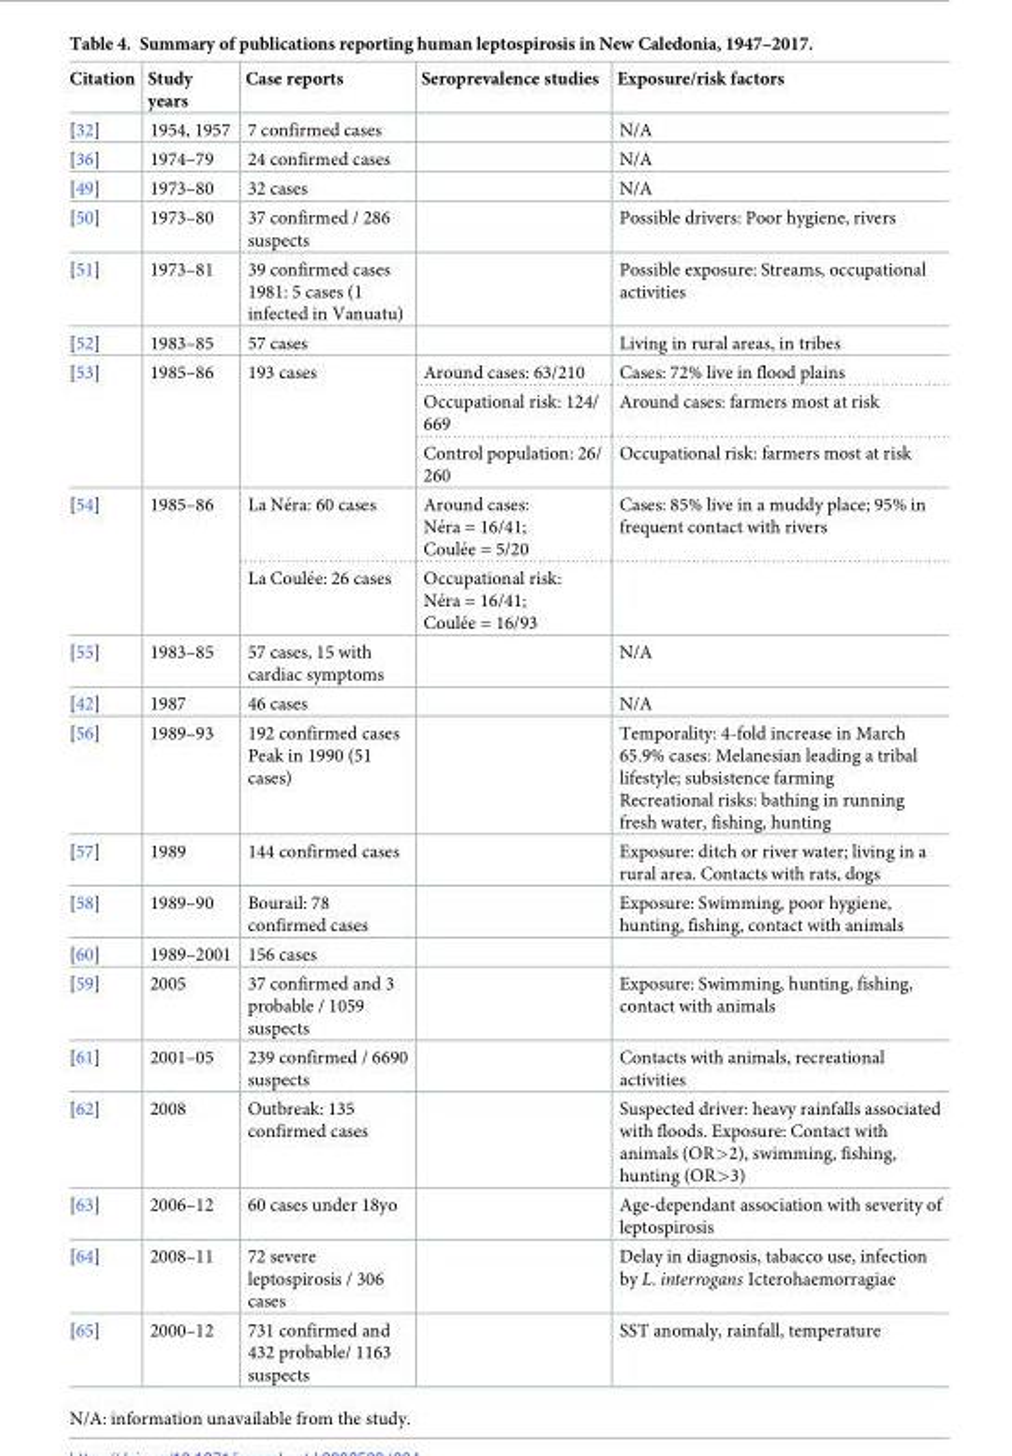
<table><thead><tr><td>Citation</td><td>Study years</td><td>Case reports</td><td>Seroprevalence studies</td><td>Exposure/risk factors</td></tr></thead><tbody><tr><td>[32]</td><td>1954, 1957</td><td>7 confirmed cases</td><td></td><td>N/A</td></tr><tr><td>[36]</td><td>1974–79</td><td>24 confirmed cases</td><td></td><td>N/A</td></tr><tr><td>[49]</td><td>1973–80</td><td>32 cases</td><td></td><td>N/A</td></tr><tr><td>[50]</td><td>1973–80</td><td>37 confirmed / 286 suspects</td><td></td><td>Possible drivers: Poor hygiene, rivers</td></tr><tr><td>[51]</td><td>1973–81</td><td>39 confirmed cases 1981: 5 cases (1 infected in Vanuatu)</td><td></td><td>Possible exposure: Streams, occupational activities</td></tr><tr><td>[52]</td><td>1983–85</td><td>57 cases</td><td></td><td>Living in rural areas, in tribes</td></tr><tr><td rowspan="3">[53]</td><td rowspan="3">1985–86</td><td rowspan="3">193 cases</td><td>Around cases: 63/210</td><td>Cases: 72% live in flood plains</td></tr><tr><td>Occupational risk: 124/ 669</td><td>Around cases: farmers most at risk</td></tr><tr><td>Control population: 26/ 260</td><td>Occupational risk: farmers most at risk</td></tr><tr><td rowspan="2">[54]</td><td rowspan="2">1985–86</td><td>La Ne´ra: 60 cases</td><td>Around cases: Ne´ra = 16/41; Coule´e = 5/20</td><td>Cases: 85% live in a muddy place; 95% in frequent contact with rivers</td></tr><tr><td>La Coule´e: 26 cases</td><td>Occupational risk: Ne´ra = 16/41; Coule´e = 16/93</td><td></td></tr><tr><td>[55]</td><td>1983–85</td><td>57 cases, 15 with cardiac symptoms</td><td></td><td>N/A</td></tr><tr><td>[42]</td><td>1987</td><td>46 cases</td><td></td><td>N/A</td></tr><tr><td>[56]</td><td>1989–93</td><td>192 confirmed cases Peak in 1990 (51 cases)</td><td></td><td>Temporality: 4-fold increase in March 65.9% cases: Melanesian leading a tribal lifestyle; subsistence farming Recreational risks: bathing in running fresh water, fishing, hunting</td></tr><tr><td>[57]</td><td>1989</td><td>144 confirmed cases</td><td></td><td>Exposure: ditch or river water; living in a rural area. Contacts with rats, dogs</td></tr><tr><td>[58]</td><td>1989–90</td><td>Bourail: 78 confirmed cases</td><td></td><td>Exposure: Swimming, poor hygiene, hunting, fishing, contact with animals</td></tr><tr><td>[60]</td><td>1989–2001</td><td>156 cases</td><td></td><td></td></tr><tr><td>[59]</td><td>2005</td><td>37 confirmed and 3 probable / 1059 suspects</td><td></td><td>Exposure: Swimming, hunting, fishing, contact with animals</td></tr><tr><td>[61]</td><td>2001–05</td><td>239 confirmed / 6690 suspects</td><td></td><td>Contacts with animals, recreational activities</td></tr><tr><td>[62]</td><td>2008</td><td>Outbreak: 135 confirmed cases</td><td></td><td>Suspected driver: heavy rainfalls associated with floods. Exposure: Contact with animals (OR&gt;2), swimming, fishing, hunting (OR&gt;3)</td></tr><tr><td>[63]</td><td>2006–12</td><td>60 cases under 18yo</td><td></td><td>Age-dependant association with severity of leptospirosis</td></tr><tr><td>[64]</td><td>2008–11</td><td>72 severe leptospirosis / 306 cases</td><td></td><td>Delay in diagnosis, tabacco use, infection by L. interrogans Icterohaemorragiae</td></tr><tr><td>[65]</td><td>2000–12</td><td>731 confirmed and 432 probable/ 1163 suspects</td><td></td><td>SST anomaly, rainfall, temperature</td></tr></tbody></table>